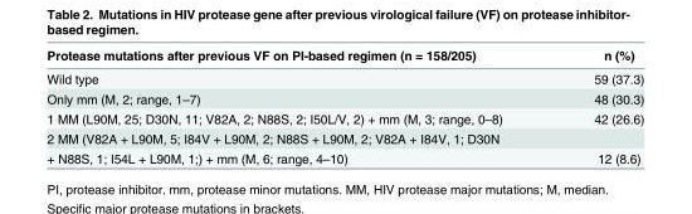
<table><thead><tr><td>Protease mutations after previous VF on PI-based regimen (n = 158/205)</td><td>n (%)</td></tr></thead><tbody><tr><td>Wild type</td><td>59 (37.3)</td></tr><tr><td>Only mm (M, 2; range, 1–7)</td><td>48 (30.3)</td></tr><tr><td>1 MM (L90M, 25; D30N, 11; V82A, 2; N88S, 2; I50L/V, 2) + mm (M, 3; range, 0–8)</td><td>42 (26.6)</td></tr><tr><td colspan="2">2 MM (V82A + L90M, 5; I84V + L90M, 2; N88S + L90M, 2; V82A + I84V, 1; D30N</td></tr><tr><td>+ N88S, 1; I54L + L90M, 1;) + mm (M, 6; range, 4–10)</td><td>12 (8.6)</td></tr></tbody></table>